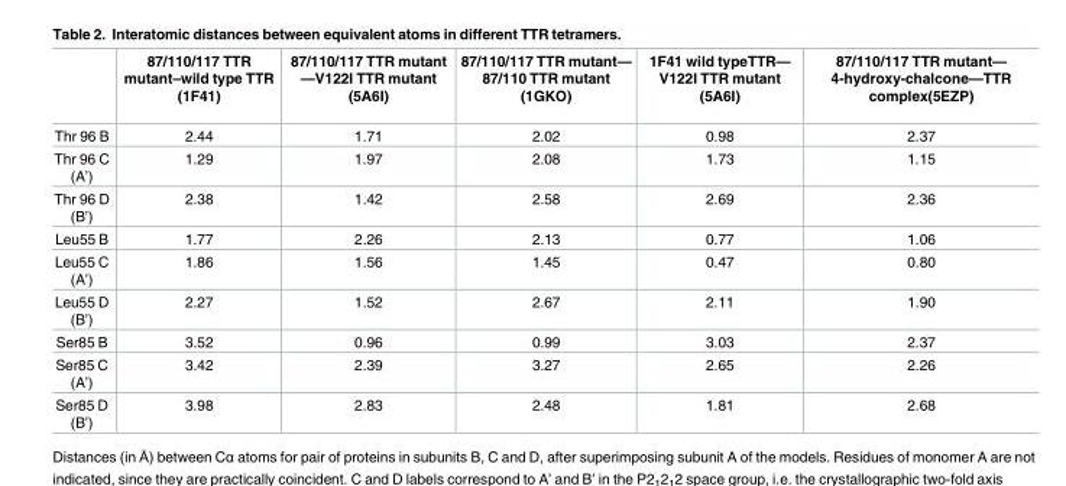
<table><thead><tr><td></td><td>87/110/117 TTR mutant–wild type TTR (1F41)</td><td>87/110/117 TTR mutant —V122I TTR mutant (5A6I)</td><td>87/110/117 TTR mutant— 87/110 TTR mutant (1GKO)</td><td>1F41 wild typeTTR— V122I TTR mutant (5A6I)</td><td>87/110/117 TTR mutant— 4-hydroxy-chalcone—TTR complex(5EZP)</td></tr></thead><tbody><tr><td>Thr 96 B</td><td>2.44</td><td>1.71</td><td>2.02</td><td>0.98</td><td>2.37</td></tr><tr><td>Thr 96 C (A’)</td><td>1.29</td><td>1.97</td><td>2.08</td><td>1.73</td><td>1.15</td></tr><tr><td>Thr 96 D (B’)</td><td>2.38</td><td>1.42</td><td>2.58</td><td>2.69</td><td>2.36</td></tr><tr><td>Leu55 B</td><td>1.77</td><td>2.26</td><td>2.13</td><td>0.77</td><td>1.06</td></tr><tr><td>Leu55 C (A’)</td><td>1.86</td><td>1.56</td><td>1.45</td><td>0.47</td><td>0.80</td></tr><tr><td>Leu55 D (B’)</td><td>2.27</td><td>1.52</td><td>2.67</td><td>2.11</td><td>1.90</td></tr><tr><td>Ser85 B</td><td>3.52</td><td>0.96</td><td>0.99</td><td>3.03</td><td>2.37</td></tr><tr><td>Ser85 C (A’)</td><td>3.42</td><td>2.39</td><td>3.27</td><td>2.65</td><td>2.26</td></tr><tr><td>Ser85 D (B’)</td><td>3.98</td><td>2.83</td><td>2.48</td><td>1.81</td><td>2.68</td></tr></tbody></table>